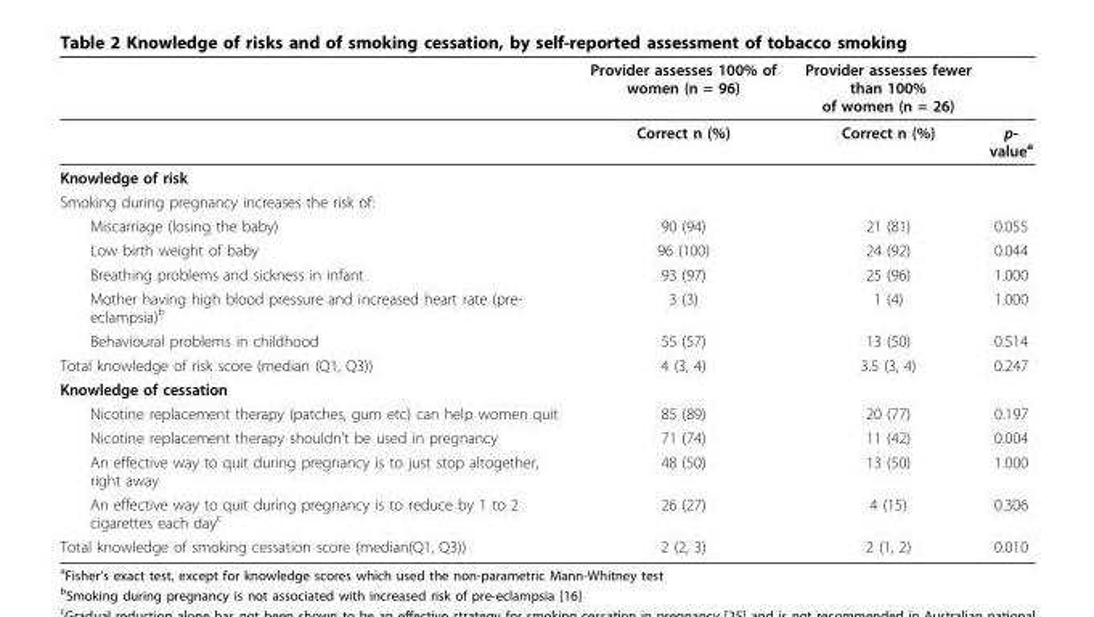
<table><thead><tr><td></td><td>Provider assesses 100% of women (n = 96)</td><td>Provider assesses fewer than 100% of women (n = 26)</td><td></td></tr></thead><tbody><tr><td></td><td>Correct n (%)</td><td>Correct n (%)</td><td>p- value<sup>a</sup></td></tr><tr><td colspan="4">Knowledge of risk</td></tr><tr><td colspan="4">Smoking during pregnancy increases the risk of:</td></tr><tr><td>Miscarriage (losing the baby)</td><td>90 (94)</td><td>21 (81)</td><td>0.055</td></tr><tr><td>Low birth weight of baby</td><td>96 (100)</td><td>24 (92)</td><td>0.044</td></tr><tr><td>Breathing problems and sickness in infant</td><td>93 (97)</td><td>25 (96)</td><td>1.000</td></tr><tr><td>Mother having high blood pressure and increased heart rate (pre- eclampsia)<sup>b</sup></td><td>3 (3)</td><td>1 (4)</td><td>1.000</td></tr><tr><td>Behavioural problems in childhood</td><td>55 (57)</td><td>13 (50)</td><td>0.514</td></tr><tr><td>Total knowledge of risk score (median (Q1, Q3))</td><td>4 (3, 4)</td><td>3.5 (3, 4)</td><td>0.247</td></tr><tr><td colspan="4">Knowledge of cessation</td></tr><tr><td>Nicotine replacement therapy (patches, gum etc) can help women quit</td><td>85 (89)</td><td>20 (77)</td><td>0.197</td></tr><tr><td>Nicotine replacement therapy shouldn’t be used in pregnancy</td><td>71 (74)</td><td>11 (42)</td><td>0.004</td></tr><tr><td>An effective way to quit during pregnancy is to just stop altogether, right away</td><td>48 (50)</td><td>13 (50)</td><td>1.000</td></tr><tr><td>An effective way to quit during pregnancy is to reduce by 1 to 2 cigarettes each day<sup>c</sup></td><td>26 (27)</td><td>4 (15)</td><td>0.306</td></tr><tr><td>Total knowledge of smoking cessation score (median(Q1, Q3))</td><td>2 (2, 3)</td><td>2 (1, 2)</td><td>0.010</td></tr></tbody></table>